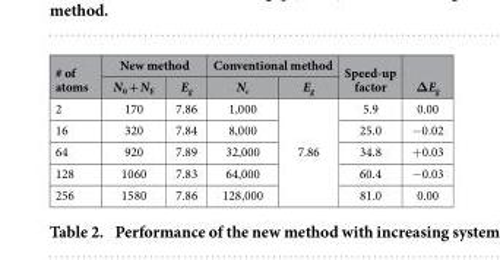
<table><thead><tr><td rowspan="2"># of atoms</td><td colspan="2">New method</td><td colspan="2">Conventional method</td><td rowspan="2">Speed-up factor</td><td rowspan="2">ΔE<sub>g</sub></td></tr><tr><td>N<sub>0</sub> + N<sub>E</sub></td><td>E<sub>g</sub></td><td>N<sub>c</sub></td><td>E<sub>g</sub></td></tr></thead><tbody><tr><td>2</td><td>170</td><td>7.86</td><td>1,000</td><td rowspan="5">7.86</td><td>5.9</td><td>0.00</td></tr><tr><td>16</td><td>320</td><td>7.84</td><td>8,000</td><td>25.0</td><td>− 0.02</td></tr><tr><td>64</td><td>920</td><td>7.89</td><td>32,000</td><td>34.8</td><td>+ 0.03</td></tr><tr><td>128</td><td>1060</td><td>7.83</td><td>64,000</td><td>60.4</td><td>− 0.03</td></tr><tr><td>256</td><td>1580</td><td>7.86</td><td>128,000</td><td>81.0</td><td>0.00</td></tr></tbody></table>